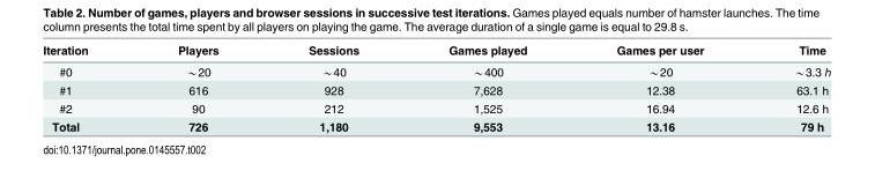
<table><thead><tr><td>Iteration</td><td>Players</td><td>Sessions</td><td>Games played</td><td>Games per user</td><td>Time</td></tr></thead><tbody><tr><td>#0</td><td>*20</td><td>*40</td><td>*400</td><td>*20</td><td>*3.3 h</td></tr><tr><td>#1</td><td>616</td><td>928</td><td>7,628</td><td>12.38</td><td>63.1 h</td></tr><tr><td>#2</td><td>90</td><td>212</td><td>1,525</td><td>16.94</td><td>12.6 h</td></tr><tr><td>Total</td><td>726</td><td>1,180</td><td>9,553</td><td>13.16</td><td>79 h</td></tr></tbody></table>